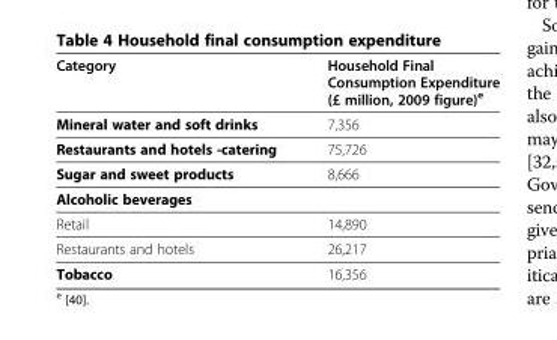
<table><thead><tr><td>Category</td><td>Household Final Consumption Expenditure (£ million, 2009 figure)<sup>e</sup></td></tr></thead><tbody><tr><td>Mineral water and soft drinks</td><td>7,356</td></tr><tr><td>Restaurants and hotels -catering</td><td>75,726</td></tr><tr><td>Sugar and sweet products</td><td>8,666</td></tr><tr><td colspan="2">Alcoholic beverages</td></tr><tr><td>Retail</td><td>14,890</td></tr><tr><td>Restaurants and hotels</td><td>26,217</td></tr><tr><td>Tobacco</td><td>16,356</td></tr></tbody></table>